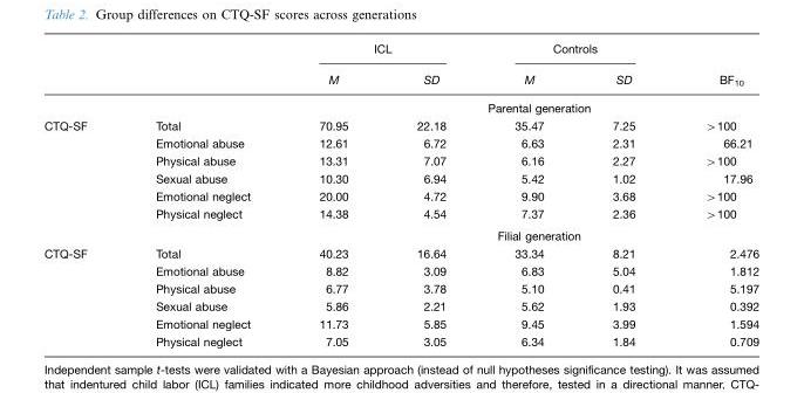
<table><thead><tr><td rowspan="2"></td><td rowspan="2"></td><td colspan="2">ICL</td><td colspan="2">Controls</td><td rowspan="2">BF<sub>10</sub></td></tr><tr><td>M</td><td>SD</td><td>M</td><td>SD</td></tr></thead><tbody><tr><td></td><td></td><td colspan="5">Parental generation</td></tr><tr><td rowspan="7">CTQ-SF</td><td>Total</td><td>70.95</td><td>22.18</td><td>35.47</td><td>7.25</td><td>&gt;100</td></tr><tr><td>Emotional abuse</td><td>12.61</td><td>6.72</td><td>6.63</td><td>2.31</td><td>66.21</td></tr><tr><td>Physical abuse</td><td>13.31</td><td>7.07</td><td>6.16</td><td>2.27</td><td>&gt;100</td></tr><tr><td>Sexual abuse</td><td>10.30</td><td>6.94</td><td>5.42</td><td>1.02</td><td>17.96</td></tr><tr><td>Emotional neglect</td><td>20.00</td><td>4.72</td><td>9.90</td><td>3.68</td><td>&gt;100</td></tr><tr><td>Physical neglect</td><td>14.38</td><td>4.54</td><td>7.37</td><td>2.36</td><td>&gt;100</td></tr><tr><td></td><td colspan="5">Filial generation</td></tr><tr><td rowspan="6">CTQ-SF</td><td>Total</td><td>40.23</td><td>16.64</td><td>33.34</td><td>8.21</td><td>2.476</td></tr><tr><td>Emotional abuse</td><td>8.82</td><td>3.09</td><td>6.83</td><td>5.04</td><td>1.812</td></tr><tr><td>Physical abuse</td><td>6.77</td><td>3.78</td><td>5.10</td><td>0.41</td><td>5.197</td></tr><tr><td>Sexual abuse</td><td>5.86</td><td>2.21</td><td>5.62</td><td>1.93</td><td>0.392</td></tr><tr><td>Emotional neglect</td><td>11.73</td><td>5.85</td><td>9.45</td><td>3.99</td><td>1.594</td></tr><tr><td>Physical neglect</td><td>7.05</td><td>3.05</td><td>6.34</td><td>1.84</td><td>0.709</td></tr></tbody></table>